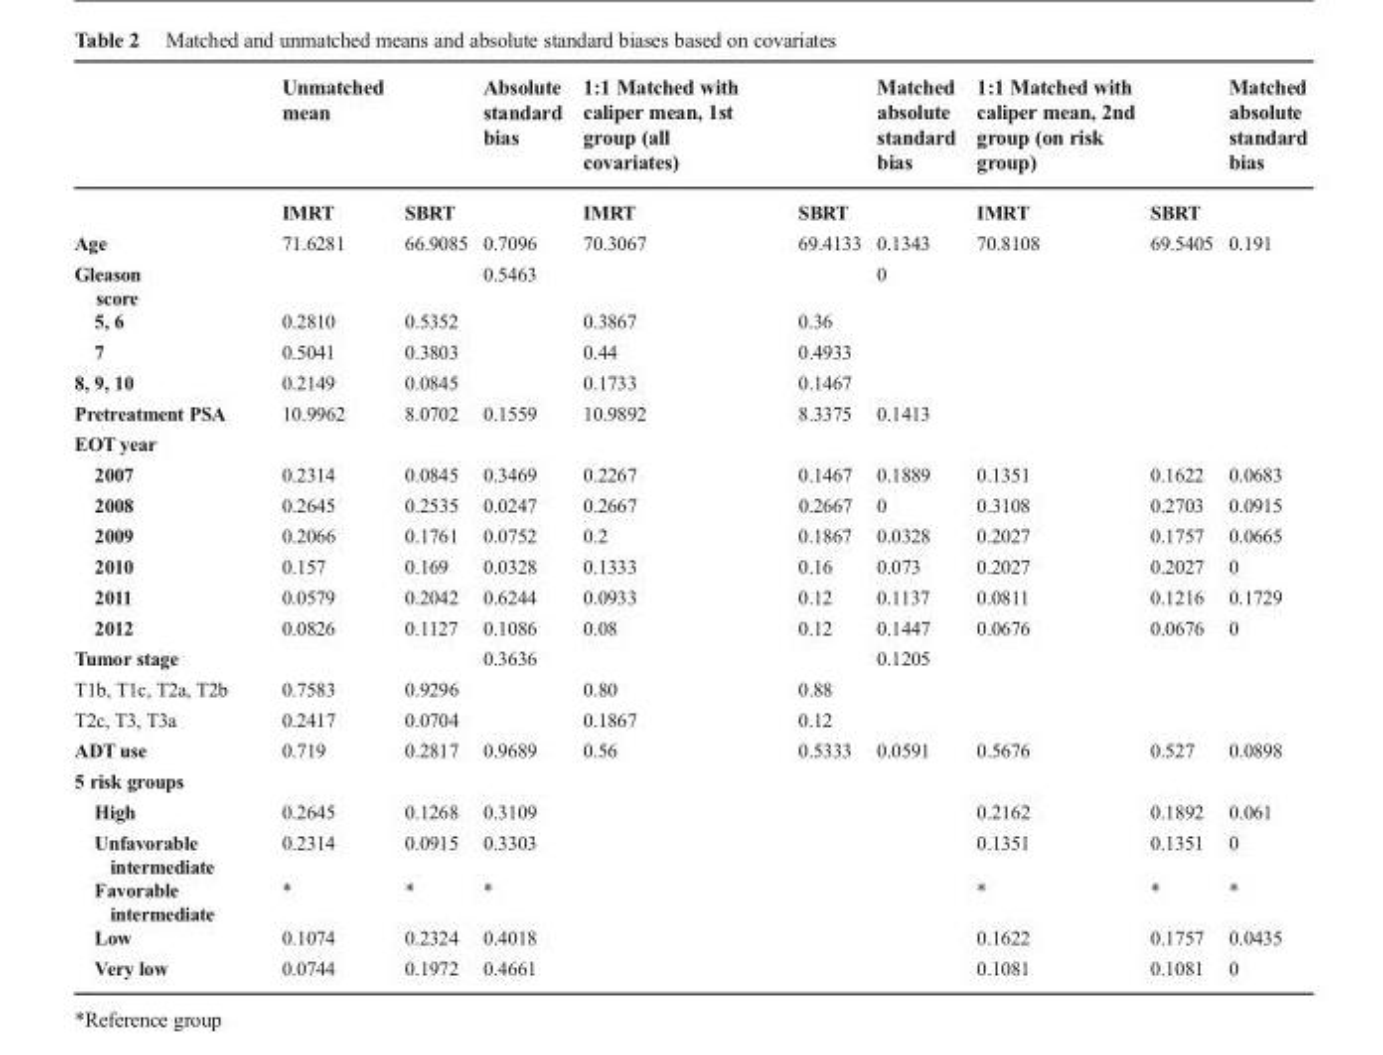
<table><thead><tr><td></td><td>Unmatched mean</td><td></td><td>Absolute standard bias</td><td>1:1 Matched with caliper mean, 1st group (all covariates)</td><td></td><td>Matched absolute standard bias</td><td>1:1 Matched with caliper mean, 2nd group (on risk group)</td><td></td><td>Matched absolute standard bias</td></tr></thead><tbody><tr><td></td><td>IMRT</td><td>SBRT</td><td></td><td>IMRT</td><td>SBRT</td><td></td><td>IMRT</td><td>SBRT</td><td></td></tr><tr><td>Age</td><td>71.6281</td><td>66.9085</td><td>0.7096</td><td>70.3067</td><td>69.4133</td><td>0.1343</td><td>70.8108</td><td>69.5405</td><td>0.191</td></tr><tr><td>Gleason score</td><td></td><td></td><td>0.5463</td><td></td><td></td><td>0</td><td></td><td></td><td></td></tr><tr><td>5, 6</td><td>0.2810</td><td>0.5352</td><td></td><td>0.3867</td><td>0.36</td><td></td><td></td><td></td><td></td></tr><tr><td>7</td><td>0.5041</td><td>0.3803</td><td></td><td>0.44</td><td>0.4933</td><td></td><td></td><td></td><td></td></tr><tr><td>8, 9, 10</td><td>0.2149</td><td>0.0845</td><td></td><td>0.1733</td><td>0.1467</td><td></td><td></td><td></td><td></td></tr><tr><td>Pretreatment PSA</td><td>10.9962</td><td>8.0702</td><td>0.1559</td><td>10.9892</td><td>8.3375</td><td>0.1413</td><td></td><td></td><td></td></tr><tr><td colspan="10">EOT year</td></tr><tr><td>2007</td><td>0.2314</td><td>0.0845</td><td>0.3469</td><td>0.2267</td><td>0.1467</td><td>0.1889</td><td>0.1351</td><td>0.1622</td><td>0.0683</td></tr><tr><td>2008</td><td>0.2645</td><td>0.2535</td><td>0.0247</td><td>0.2667</td><td>0.2667</td><td>0</td><td>0.3108</td><td>0.2703</td><td>0.0915</td></tr><tr><td>2009</td><td>0.2066</td><td>0.1761</td><td>0.0752</td><td>0.2</td><td>0.1867</td><td>0.0328</td><td>0.2027</td><td>0.1757</td><td>0.0665</td></tr><tr><td>2010</td><td>0.157</td><td>0.169</td><td>0.0328</td><td>0.1333</td><td>0.16</td><td>0.073</td><td>0.2027</td><td>0.2027</td><td>0</td></tr><tr><td>2011</td><td>0.0579</td><td>0.2042</td><td>0.6244</td><td>0.0933</td><td>0.12</td><td>0.1137</td><td>0.0811</td><td>0.1216</td><td>0.1729</td></tr><tr><td>2012</td><td>0.0826</td><td>0.1127</td><td>0.1086</td><td>0.08</td><td>0.12</td><td>0.1447</td><td>0.0676</td><td>0.0676</td><td>0</td></tr><tr><td>Tumor stage</td><td></td><td></td><td>0.3636</td><td></td><td></td><td>0.1205</td><td></td><td></td><td></td></tr><tr><td>T1b, T1c, T2a, T2b</td><td>0.7583</td><td>0.9296</td><td></td><td>0.80</td><td>0.88</td><td></td><td></td><td></td><td></td></tr><tr><td>T2c, T3, T3a</td><td>0.2417</td><td>0.0704</td><td></td><td>0.1867</td><td>0.12</td><td></td><td></td><td></td><td></td></tr><tr><td>ADT use</td><td>0.719</td><td>0.2817</td><td>0.9689</td><td>0.56</td><td>0.5333</td><td>0.0591</td><td>0.5676</td><td>0.527</td><td>0.0898</td></tr><tr><td colspan="10">5 risk groups</td></tr><tr><td>High</td><td>0.2645</td><td>0.1268</td><td>0.3109</td><td></td><td></td><td></td><td>0.2162</td><td>0.1892</td><td>0.061</td></tr><tr><td>Unfavorable intermediate</td><td>0.2314</td><td>0.0915</td><td>0.3303</td><td></td><td></td><td></td><td>0.1351</td><td>0.1351</td><td>0</td></tr><tr><td>Favorable intermediate</td><td>*</td><td>*</td><td>*</td><td></td><td></td><td></td><td>*</td><td>*</td><td>*</td></tr><tr><td>Low</td><td>0.1074</td><td>0.2324</td><td>0.4018</td><td></td><td></td><td></td><td>0.1622</td><td>0.1757</td><td>0.0435</td></tr><tr><td>Very low</td><td>0.0744</td><td>0.1972</td><td>0.4661</td><td></td><td></td><td></td><td>0.1081</td><td>0.1081</td><td>0</td></tr></tbody></table>